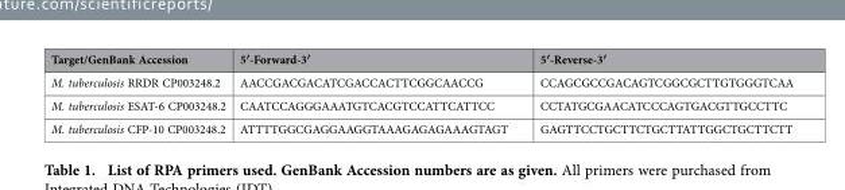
<table><thead><tr><td>Target/GenBank Accession</td><td>5′-Forward-3′</td><td>5′-Reverse-3′</td></tr></thead><tbody><tr><td>M. tuberculosis RRDR CP003248.2</td><td>AACCGACGACATCGACCACTTCGGCAACCG</td><td>CCAGCGCCGACAGTCGGCGCTTGTGGGTCAA</td></tr><tr><td>M. tuberculosis ESAT-6 CP003248.2</td><td>CAATCCAGGGAAATGTCACGTCCATTCATTCC</td><td>CCTATGCGAACATCCCAGTGACGTTGCCTTC</td></tr><tr><td>M. tuberculosis CFP-10 CP003248.2</td><td>ATTTTGGCGAGGAAGGTAAAGAGAGAAAGTAGT</td><td>GAGTTCCTGCTTCTGCTTATTGGCTGCTTCTT</td></tr></tbody></table>